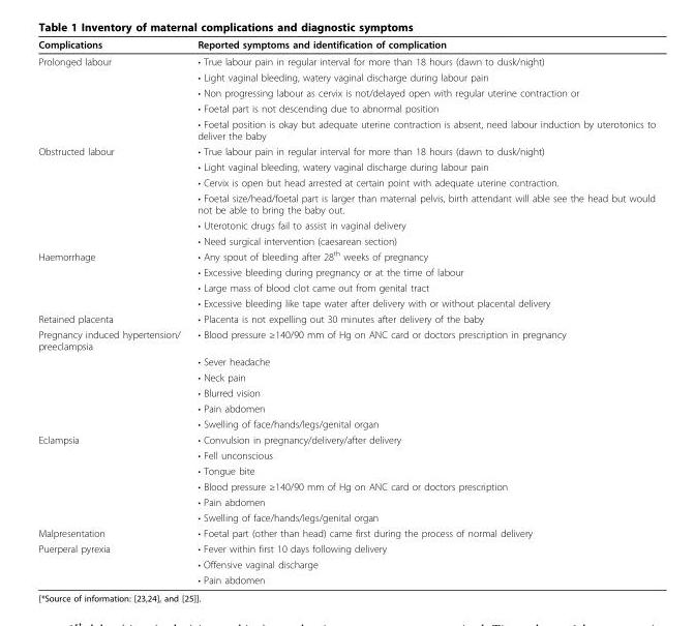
<table><thead><tr><td>Complications</td><td>Reported symptoms and identification of complication</td></tr></thead><tbody><tr><td rowspan="5">Prolonged labour</td><td>• True labour pain in regular interval for more than 18 hours (dawn to dusk/night)</td></tr><tr><td>• Light vaginal bleeding, watery vaginal discharge during labour pain</td></tr><tr><td>• Non progressing labour as cervix is not/delayed open with regular uterine contraction or</td></tr><tr><td>• Foetal part is not descending due to abnormal position</td></tr><tr><td>• Foetal position is okay but adequate uterine contraction is absent, need labour induction by uterotonics to deliver the baby</td></tr><tr><td rowspan="6">Obstructed labour</td><td>• True labour pain in regular interval for more than 18 hours (dawn to dusk/night)</td></tr><tr><td>• Light vaginal bleeding, watery vaginal discharge during labour pain</td></tr><tr><td>• Cervix is open but head arrested at certain point with adequate uterine contraction.</td></tr><tr><td>• Foetal size/head/foetal part is larger than maternal pelvis, birth attendant will able see the head but would not be able to bring the baby out.</td></tr><tr><td>• Uterotonic drugs fail to assist in vaginal delivery</td></tr><tr><td>• Need surgical intervention (caesarean section)</td></tr><tr><td rowspan="4">Haemorrhage</td><td>• Any spout of bleeding after 28<sup>th</sup> weeks of pregnancy</td></tr><tr><td>• Excessive bleeding during pregnancy or at the time of labour</td></tr><tr><td>• Large mass of blood clot came out from genital tract</td></tr><tr><td>• Excessive bleeding like tape water after delivery with or without placental delivery</td></tr><tr><td>Retained placenta</td><td>• Placenta is not expelling out 30 minutes after delivery of the baby</td></tr><tr><td rowspan="6">Pregnancy induced hypertension/ preeclampsia</td><td>• Blood pressure ≥140/90 mm of Hg on ANC card or doctors prescription in pregnancy</td></tr><tr><td>• Sever headache</td></tr><tr><td>• Neck pain</td></tr><tr><td>• Blurred vision</td></tr><tr><td>• Pain abdomen</td></tr><tr><td>• Swelling of face/hands/legs/genital organ</td></tr><tr><td rowspan="6">Eclampsia</td><td>• Convulsion in pregnancy/delivery/after delivery</td></tr><tr><td>• Fell unconscious</td></tr><tr><td>• Tongue bite</td></tr><tr><td>• Blood pressure ≥140/90 mm of Hg on ANC card or doctors prescription</td></tr><tr><td>• Pain abdomen</td></tr><tr><td>• Swelling of face/hands/legs/genital organ</td></tr><tr><td>Malpresentation</td><td>• Foetal part (other than head) came first during the process of normal delivery</td></tr><tr><td rowspan="3">Puerperal pyrexia</td><td>• Fever within first 10 days following delivery</td></tr><tr><td>• Offensive vaginal discharge</td></tr><tr><td>• Pain abdomen</td></tr></tbody></table>